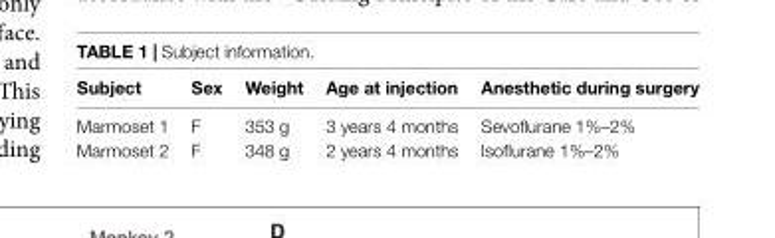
<table><thead><tr><td>Subject</td><td>Sex</td><td>Weight</td><td>Age at injection</td><td>Anesthetic during surgery</td></tr></thead><tbody><tr><td>Marmoset 1</td><td>F</td><td>353 g</td><td>3 years 4 months</td><td>Sevoflurane 1%–2%</td></tr><tr><td>Marmoset 2</td><td>F</td><td>348 g</td><td>2 years 4 months</td><td>Isoflurane 1%–2%</td></tr></tbody></table>